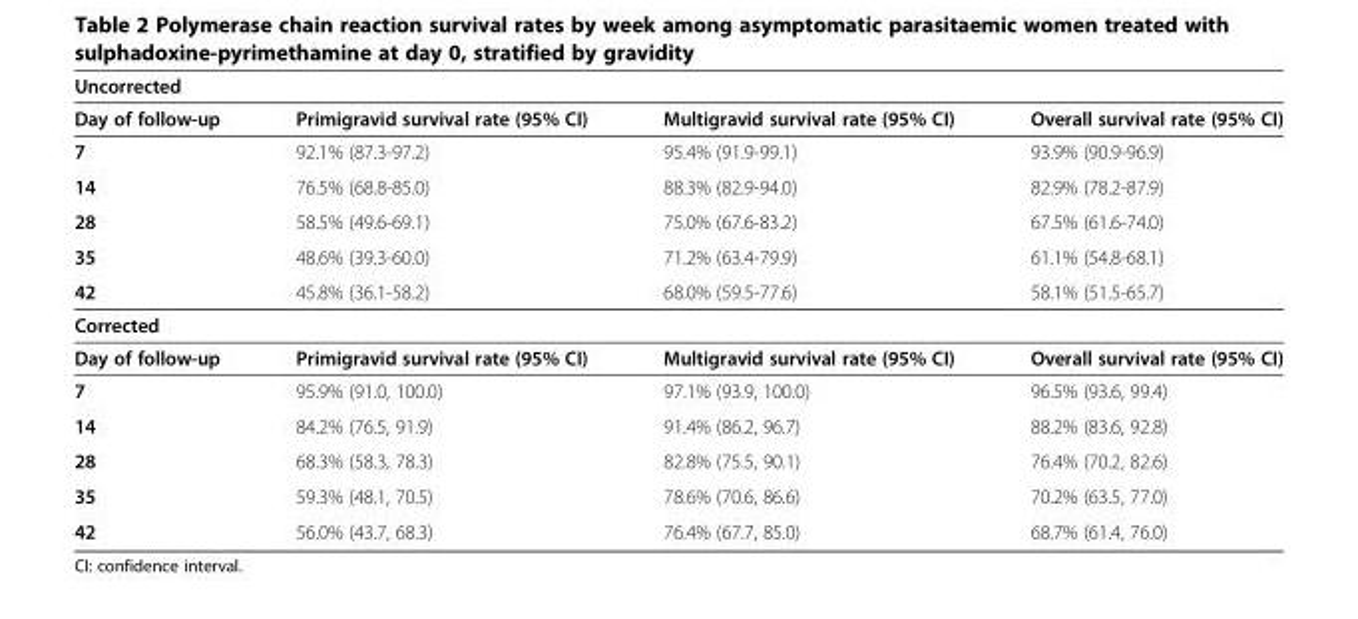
<table><thead><tr><td colspan="4">Uncorrected</td></tr><tr><td>Day of follow-up</td><td>Primigravid survival rate (95% CI)</td><td>Multigravid survival rate (95% CI)</td><td>Overall survival rate (95% CI)</td></tr></thead><tbody><tr><td>7</td><td>92.1% (87.3-97.2)</td><td>95.4% (91.9-99.1)</td><td>93.9% (90.9-96.9)</td></tr><tr><td>14</td><td>76.5% (68.8-85.0)</td><td>88.3% (82.9-94.0)</td><td>82.9% (78.2-87.9)</td></tr><tr><td>28</td><td>58.5% (49.6-69.1)</td><td>75.0% (67.6-83.2)</td><td>67.5% (61.6-74.0)</td></tr><tr><td>35</td><td>48.6% (39.3-60.0)</td><td>71.2% (63.4-79.9)</td><td>61.1% (54.8-68.1)</td></tr><tr><td>42</td><td>45.8% (36.1-58.2)</td><td>68.0% (59.5-77.6)</td><td>58.1% (51.5-65.7)</td></tr><tr><td colspan="4">Corrected</td></tr><tr><td>Day of follow-up</td><td>Primigravid survival rate (95% CI)</td><td>Multigravid survival rate (95% CI)</td><td>Overall survival rate (95% CI)</td></tr><tr><td>7</td><td>95.9% (91.0, 100.0)</td><td>97.1% (93.9, 100.0)</td><td>96.5% (93.6, 99.4)</td></tr><tr><td>14</td><td>84.2% (76.5, 91.9)</td><td>91.4% (86.2, 96.7)</td><td>88.2% (83.6, 92.8)</td></tr><tr><td>28</td><td>68.3% (58.3, 78.3)</td><td>82.8% (75.5, 90.1)</td><td>76.4% (70.2, 82.6)</td></tr><tr><td>35</td><td>59.3% (48.1, 70.5)</td><td>78.6% (70.6, 86.6)</td><td>70.2% (63.5, 77.0)</td></tr><tr><td>42</td><td>56.0% (43.7, 68.3)</td><td>76.4% (67.7, 85.0)</td><td>68.7% (61.4, 76.0)</td></tr></tbody></table>